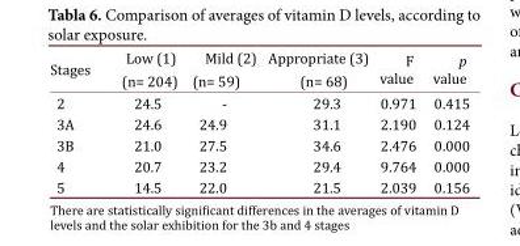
<table><thead><tr><td rowspan="2">Stages</td><td rowspan="2">Low (1) (n= 204)</td><td rowspan="2">Mild (2) (n= 59)</td><td rowspan="2">Appropriate (3) (n= 68)</td><td rowspan="2">F value</td><td rowspan="2">p value</td></tr><tr></tr></thead><tbody><tr><td>2</td><td>24.5</td><td>-</td><td>29.3</td><td>0.971</td><td>0.415</td></tr><tr><td>3A</td><td>24.6</td><td>24.9</td><td>31.1</td><td>2.190</td><td>0.124</td></tr><tr><td>3B</td><td>21.0</td><td>27.5</td><td>34.6</td><td>2.476</td><td>0.000</td></tr><tr><td>4</td><td>20.7</td><td>23.2</td><td>29.4</td><td>9.764</td><td>0.000</td></tr><tr><td>5</td><td>14.5</td><td>22.0</td><td>21.5</td><td>2.039</td><td>0.156</td></tr></tbody></table>